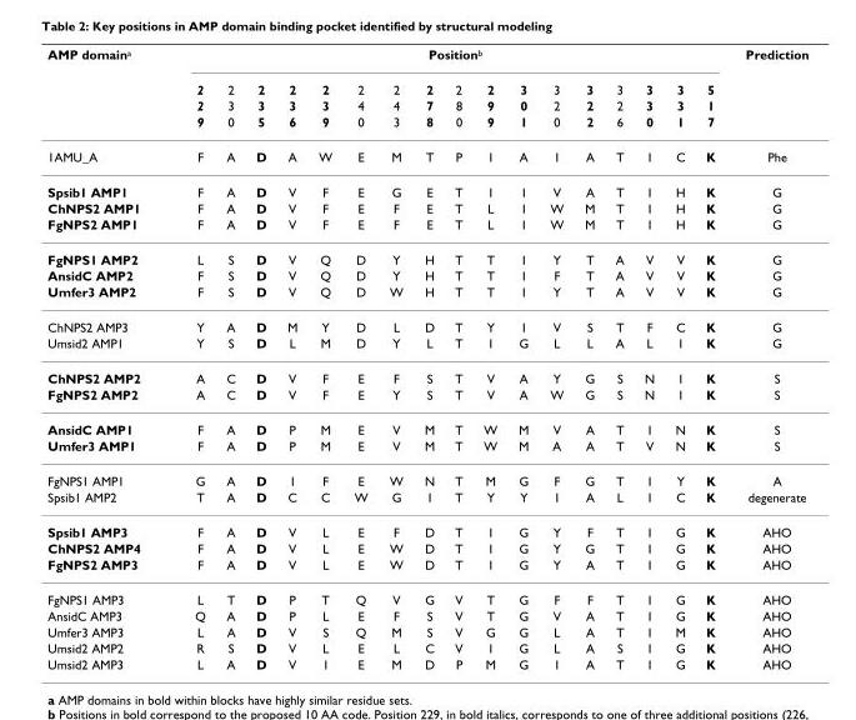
<table><thead><tr><td rowspan="4">AMP domaina</td><td colspan="17">Positionb</td><td rowspan="4">Prediction</td></tr><tr><td rowspan="3">2 2 9</td><td rowspan="3">2 3 0</td><td rowspan="3">2 3 5</td><td rowspan="3">2 3 6</td><td rowspan="3">2 3 9</td><td rowspan="3">2 4 0</td><td rowspan="3">2 4 3</td><td rowspan="3">2 7 8</td><td rowspan="3">2 8 0</td><td rowspan="3">2 9 9</td><td rowspan="3">3 0 1</td><td rowspan="3">3 2 0</td><td rowspan="3">3 2 2</td><td rowspan="3">3 2 6</td><td rowspan="3">3 3 0</td><td rowspan="3">3 3 1</td><td rowspan="3">5 1 7</td></tr><tr></tr><tr></tr></thead><tbody><tr><td>1AMU_A</td><td>F</td><td>A</td><td>D</td><td>A</td><td>W</td><td>E</td><td>M</td><td>T</td><td>P</td><td>I</td><td>A</td><td>I</td><td>A</td><td>T</td><td>I</td><td>C</td><td>K</td><td>Phe</td></tr><tr><td>Spsib1 AMP1</td><td>F</td><td>A</td><td>D</td><td>V</td><td>F</td><td>E</td><td>G</td><td>E</td><td>T</td><td>I</td><td>I</td><td>V</td><td>A</td><td>T</td><td>I</td><td>H</td><td>K</td><td>G</td></tr><tr><td>ChNPS2 AMP1</td><td>F</td><td>A</td><td>D</td><td>V</td><td>F</td><td>E</td><td>F</td><td>E</td><td>T</td><td>L</td><td>I</td><td>W</td><td>M</td><td>T</td><td>I</td><td>H</td><td>K</td><td>G</td></tr><tr><td>FgNPS2 AMP1</td><td>F</td><td>A</td><td>D</td><td>V</td><td>F</td><td>E</td><td>F</td><td>E</td><td>T</td><td>L</td><td>I</td><td>W</td><td>M</td><td>T</td><td>I</td><td>H</td><td>K</td><td>G</td></tr><tr><td>FgNPS1 AMP2</td><td>L</td><td>S</td><td>D</td><td>V</td><td>Q</td><td>D</td><td>Y</td><td>H</td><td>T</td><td>T</td><td>I</td><td>Y</td><td>T</td><td>A</td><td>V</td><td>V</td><td>K</td><td>G</td></tr><tr><td>AnsidC AMP2</td><td>F</td><td>S</td><td>D</td><td>V</td><td>Q</td><td>D</td><td>Y</td><td>H</td><td>T</td><td>T</td><td>I</td><td>F</td><td>T</td><td>A</td><td>V</td><td>V</td><td>K</td><td>G</td></tr><tr><td>Umfer3 AMP2</td><td>F</td><td>S</td><td>D</td><td>V</td><td>Q</td><td>D</td><td>W</td><td>H</td><td>T</td><td>T</td><td>I</td><td>Y</td><td>T</td><td>A</td><td>V</td><td>V</td><td>K</td><td>G</td></tr><tr><td>ChNPS2 AMP3</td><td>Y</td><td>A</td><td>D</td><td>M</td><td>Y</td><td>D</td><td>L</td><td>D</td><td>T</td><td>Y</td><td>I</td><td>V</td><td>S</td><td>T</td><td>F</td><td>C</td><td>K</td><td>G</td></tr><tr><td>Umsid2 AMP1</td><td>Y</td><td>S</td><td>D</td><td>L</td><td>M</td><td>D</td><td>Y</td><td>L</td><td>T</td><td>I</td><td>G</td><td>L</td><td>L</td><td>A</td><td>L</td><td>I</td><td>K</td><td>G</td></tr><tr><td>ChNPS2 AMP2</td><td>A</td><td>C</td><td>D</td><td>V</td><td>F</td><td>E</td><td>F</td><td>S</td><td>T</td><td>V</td><td>A</td><td>Y</td><td>G</td><td>S</td><td>N</td><td>I</td><td>K</td><td>S</td></tr><tr><td>FgNPS2 AMP2</td><td>A</td><td>C</td><td>D</td><td>V</td><td>F</td><td>E</td><td>Y</td><td>S</td><td>T</td><td>V</td><td>A</td><td>W</td><td>G</td><td>S</td><td>N</td><td>I</td><td>K</td><td>S</td></tr><tr><td>AnsidC AMP1</td><td>F</td><td>A</td><td>D</td><td>P</td><td>M</td><td>E</td><td>V</td><td>M</td><td>T</td><td>W</td><td>M</td><td>V</td><td>A</td><td>T</td><td>I</td><td>N</td><td>K</td><td>S</td></tr><tr><td>Umfer3 AMP1</td><td>F</td><td>A</td><td>D</td><td>P</td><td>M</td><td>E</td><td>V</td><td>M</td><td>T</td><td>W</td><td>M</td><td>A</td><td>A</td><td>T</td><td>V</td><td>N</td><td>K</td><td>S</td></tr><tr><td>FgNPS1 AMP1</td><td>G</td><td>A</td><td>D</td><td>I</td><td>F</td><td>E</td><td>W</td><td>N</td><td>T</td><td>M</td><td>G</td><td>F</td><td>G</td><td>T</td><td>I</td><td>Y</td><td>K</td><td>A</td></tr><tr><td>Spsib1 AMP2</td><td>T</td><td>A</td><td>D</td><td>C</td><td>C</td><td>W</td><td>G</td><td>I</td><td>T</td><td>Y</td><td>Y</td><td>I</td><td>A</td><td>L</td><td>I</td><td>C</td><td>K</td><td>degenerate</td></tr><tr><td>Spsib1 AMP3</td><td>F</td><td>A</td><td>D</td><td>V</td><td>L</td><td>E</td><td>F</td><td>D</td><td>T</td><td>I</td><td>G</td><td>Y</td><td>F</td><td>T</td><td>I</td><td>G</td><td>K</td><td>AHO</td></tr><tr><td>ChNPS2 AMP4</td><td>F</td><td>A</td><td>D</td><td>V</td><td>L</td><td>E</td><td>W</td><td>D</td><td>T</td><td>I</td><td>G</td><td>Y</td><td>G</td><td>T</td><td>I</td><td>G</td><td>K</td><td>AHO</td></tr><tr><td>FgNPS2 AMP3</td><td>F</td><td>A</td><td>D</td><td>V</td><td>L</td><td>E</td><td>W</td><td>D</td><td>T</td><td>I</td><td>G</td><td>Y</td><td>A</td><td>T</td><td>I</td><td>G</td><td>K</td><td>AHO</td></tr><tr><td>FgNPS1 AMP3</td><td>L</td><td>T</td><td>D</td><td>P</td><td>T</td><td>Q</td><td>V</td><td>G</td><td>V</td><td>T</td><td>G</td><td>F</td><td>F</td><td>T</td><td>I</td><td>G</td><td>K</td><td>AHO</td></tr><tr><td>AnsidC AMP3</td><td>Q</td><td>A</td><td>D</td><td>P</td><td>L</td><td>E</td><td>F</td><td>S</td><td>V</td><td>T</td><td>G</td><td>V</td><td>A</td><td>T</td><td>I</td><td>G</td><td>K</td><td>AHO</td></tr><tr><td>Umfer3 AMP3</td><td>L</td><td>A</td><td>D</td><td>V</td><td>S</td><td>Q</td><td>M</td><td>S</td><td>V</td><td>G</td><td>G</td><td>L</td><td>A</td><td>T</td><td>I</td><td>M</td><td>K</td><td>AHO</td></tr><tr><td>Umsid2 AMP2</td><td>R</td><td>S</td><td>D</td><td>V</td><td>L</td><td>E</td><td>L</td><td>C</td><td>V</td><td>I</td><td>G</td><td>L</td><td>A</td><td>S</td><td>I</td><td>G</td><td>K</td><td>AHO</td></tr><tr><td>Umsid2 AMP3</td><td>L</td><td>A</td><td>D</td><td>V</td><td>I</td><td>E</td><td>M</td><td>D</td><td>P</td><td>M</td><td>G</td><td>I</td><td>A</td><td>T</td><td>I</td><td>G</td><td>K</td><td>AHO</td></tr></tbody></table>